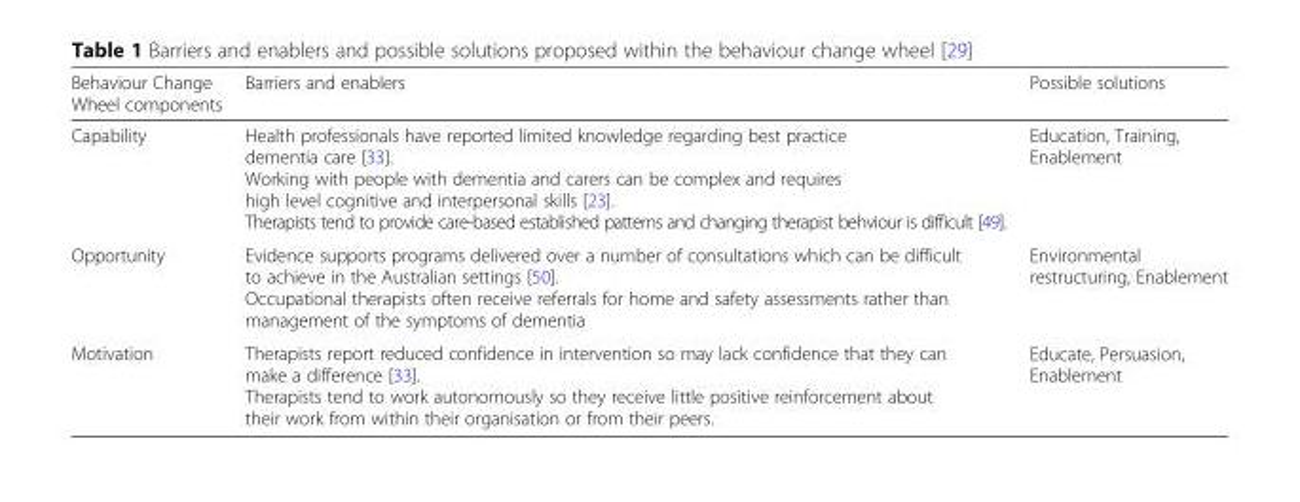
<table><thead><tr><td>Behaviour Change Wheel components</td><td>Barriers and enablers</td><td>Possible solutions</td></tr></thead><tbody><tr><td>Capability</td><td>Health professionals have reported limited knowledge regarding best practice dementia care [33]. Working with people with dementia and carers can be complex and requires high level cognitive and interpersonal skills [23]. Therapists tend to provide care-based established patterns and changing therapist behviour is difficult [49].</td><td>Education, Training, Enablement</td></tr><tr><td>Opportunity</td><td>Evidence supports programs delivered over a number of consultations which can be difficult to achieve in the Australian settings [50]. Occupational therapists often receive referrals for home and safety assessments rather than management of the symptoms of dementia</td><td>Environmental restructuring, Enablement</td></tr><tr><td>Motivation</td><td>Therapists report reduced confidence in intervention so may lack confidence that they can make a difference [33]. Therapists tend to work autonomously so they receive little positive reinforcement about their work from within their organisation or from their peers.</td><td>Educate, Persuasion, Enablement</td></tr></tbody></table>